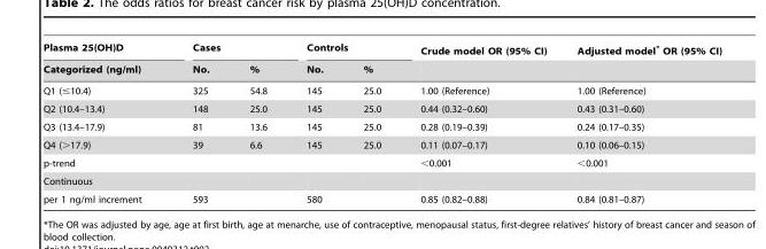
<table><thead><tr><td rowspan="2">Plasma 25(OH)D Categorized (ng/ml)</td><td colspan="2">Cases</td><td colspan="2">Controls</td><td rowspan="2">Crude model OR (95% CI)</td><td rowspan="2">Adjusted model* OR (95% CI)</td></tr><tr><td>No.</td><td>%</td><td>No.</td><td>%</td></tr></thead><tbody><tr><td>Q1 (≤10.4)</td><td>325</td><td>54.8</td><td>145</td><td>25.0</td><td>1.00 (Reference)</td><td>1.00 (Reference)</td></tr><tr><td>Q2 (10.4–13.4)</td><td>148</td><td>25.0</td><td>145</td><td>25.0</td><td>0.44 (0.32–0.60)</td><td>0.43 (0.31–0.60)</td></tr><tr><td>Q3 (13.4–17.9)</td><td>81</td><td>13.6</td><td>145</td><td>25.0</td><td>0.28 (0.19–0.39)</td><td>0.24 (0.17–0.35)</td></tr><tr><td>Q4 (&gt;17.9)</td><td>39</td><td>6.6</td><td>145</td><td>25.0</td><td>0.11 (0.07–0.17)</td><td>0.10 (0.06–0.15)</td></tr><tr><td>p-trend</td><td></td><td></td><td></td><td></td><td>&lt;0.001</td><td>&lt;0.001</td></tr><tr><td colspan="7">Continuous</td></tr><tr><td>per 1 ng/ml increment</td><td>593</td><td></td><td>580</td><td></td><td>0.85 (0.82–0.88)</td><td>0.84 (0.81–0.87)</td></tr></tbody></table>